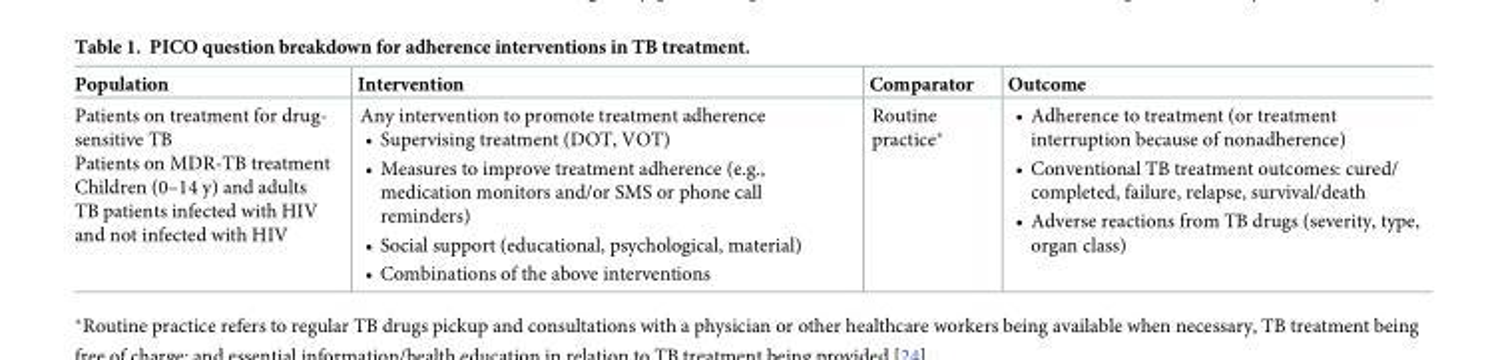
<table><thead><tr><td>Population</td><td>Intervention</td><td>Comparator</td><td>Outcome</td></tr></thead><tbody><tr><td>Patients on treatment for drug- sensitive TB Patients on MDR-TB treatment Children (0–14 y) and adults TB patients infected with HIV and not infected with HIV</td><td>Any intervention to promote treatment adherence • Supervising treatment (DOT, VOT) • Measures to improve treatment adherence (e.g., medication monitors and/or SMS or phone call reminders) • Social support (educational, psychological, material) • Combinations of the above interventions</td><td>Routine practice*</td><td>• Adherence to treatment (or treatment interruption because of nonadherence) • Conventional TB treatment outcomes: cured/ completed, failure, relapse, survival/death • Adverse reactions from TB drugs (severity, type, organ class)</td></tr></tbody></table>